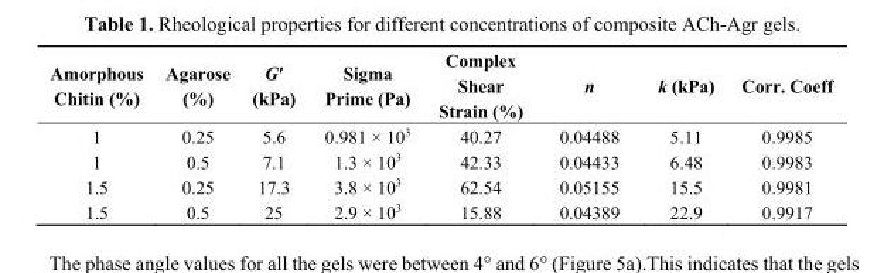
<table><thead><tr><td>Amorphous Chitin (%)</td><td>Agarose (%)</td><td>G′ (kPa)</td><td>Sigma Prime (Pa)</td><td>Complex Shear Strain (%)</td><td>n</td><td>k (kPa)</td><td>Corr. Coeff</td></tr></thead><tbody><tr><td>1</td><td>0.25</td><td>5.6</td><td>0.981 × 10<sup>3</sup></td><td>40.27</td><td>0.04488</td><td>5.11</td><td>0.9985</td></tr><tr><td>1</td><td>0.5</td><td>7.1</td><td>1.3 × 10<sup>3</sup></td><td>42.33</td><td>0.04433</td><td>6.48</td><td>0.9983</td></tr><tr><td>1.5</td><td>0.25</td><td>17.3</td><td>3.8 × 10<sup>3</sup></td><td>62.54</td><td>0.05155</td><td>15.5</td><td>0.9981</td></tr><tr><td>1.5</td><td>0.5</td><td>25</td><td>2.9 × 10<sup>3</sup></td><td>15.88</td><td>0.04389</td><td>22.9</td><td>0.9917</td></tr></tbody></table>